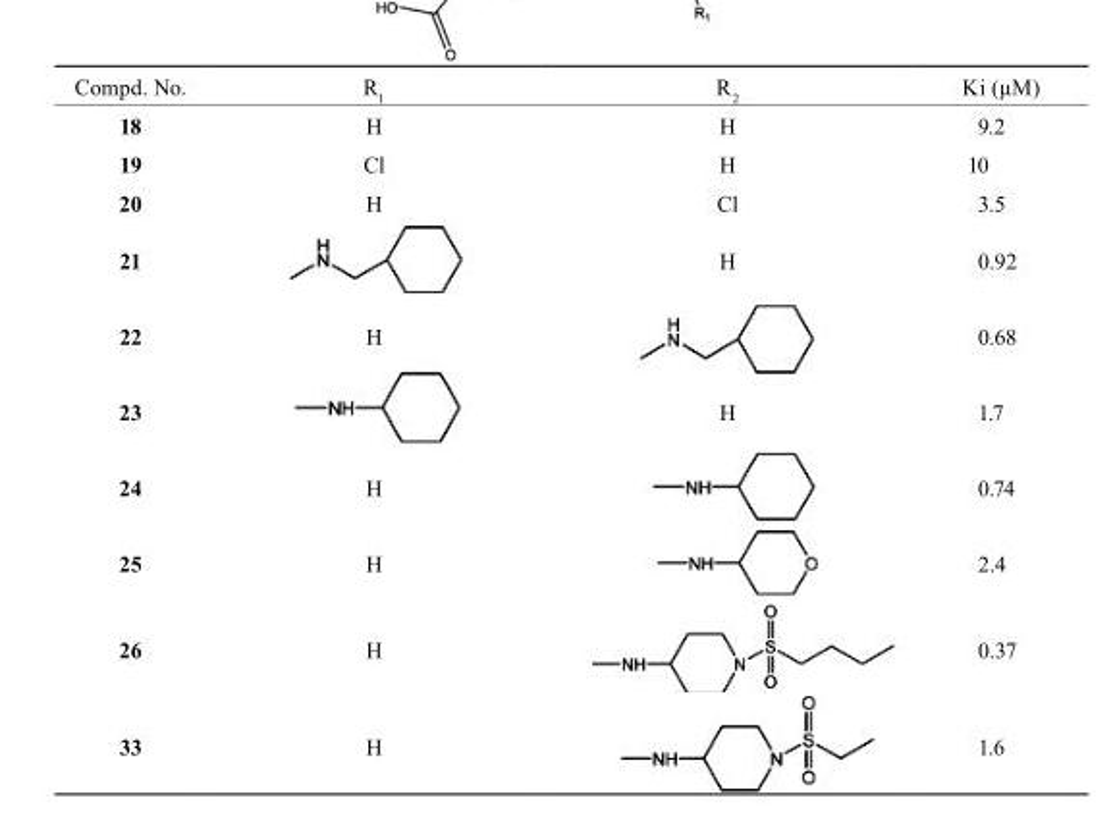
<table><thead><tr><td>Compd. No.</td><td>R<sub>1</sub></td><td>R<sub>2</sub></td><td>Ki (μM)</td></tr></thead><tbody><tr><td>18</td><td>H</td><td>H</td><td>9.2</td></tr><tr><td>19</td><td>Cl</td><td>H</td><td>10</td></tr><tr><td>20</td><td>H</td><td>Cl</td><td>3.5</td></tr><tr><td>21</td><td></td><td>H</td><td>0.92</td></tr><tr><td>22</td><td>H</td><td></td><td>0.68</td></tr><tr><td>23</td><td></td><td>H</td><td>1.7</td></tr><tr><td>24</td><td>H</td><td></td><td>0.74</td></tr><tr><td>25</td><td>H</td><td></td><td>2.4</td></tr><tr><td>26</td><td>H</td><td></td><td>0.37</td></tr><tr><td>33</td><td>H</td><td></td><td>1.6</td></tr></tbody></table>